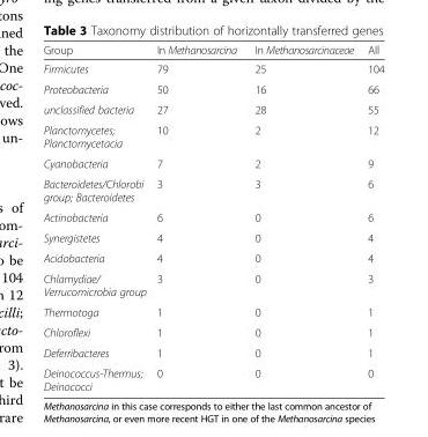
<table><thead><tr><td>Group</td><td>In Methanosarcina</td><td>In Methanosarcinaceae</td><td>All</td></tr></thead><tbody><tr><td>Firmicutes</td><td>79</td><td>25</td><td>104</td></tr><tr><td>Proteobacteria</td><td>50</td><td>16</td><td>66</td></tr><tr><td>unclassified bacteria</td><td>27</td><td>28</td><td>55</td></tr><tr><td>Planctomycetes; Planctomycetacia</td><td>10</td><td>2</td><td>12</td></tr><tr><td>Cyanobacteria</td><td>7</td><td>2</td><td>9</td></tr><tr><td>Bacteroidetes/Chlorobi group; Bacteroidetes</td><td>3</td><td>3</td><td>6</td></tr><tr><td>Actinobacteria</td><td>6</td><td>0</td><td>6</td></tr><tr><td>Synergistetes</td><td>4</td><td>0</td><td>4</td></tr><tr><td>Acidobacteria</td><td>4</td><td>0</td><td>4</td></tr><tr><td>Chlamydiae/ Verrucomicrobia group</td><td>3</td><td>0</td><td>3</td></tr><tr><td>Thermotoga</td><td>1</td><td>0</td><td>1</td></tr><tr><td>Chloroflexi</td><td>1</td><td>0</td><td>1</td></tr><tr><td>Deferribacteres</td><td>1</td><td>0</td><td>1</td></tr><tr><td>Deinococcus-Thermus; Deinococci</td><td>0</td><td>0</td><td>0</td></tr></tbody></table>